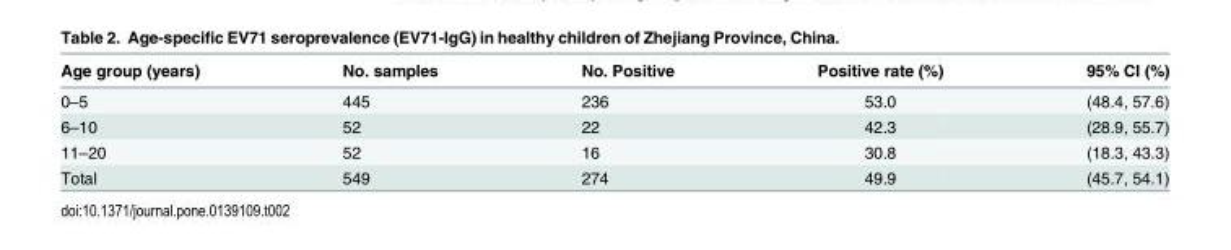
<table><thead><tr><td>Age group (years)</td><td>No. samples</td><td>No. Positive</td><td>Positive rate (%)</td><td>95% CI (%)</td></tr></thead><tbody><tr><td>0–5</td><td>445</td><td>236</td><td>53.0</td><td>(48.4, 57.6)</td></tr><tr><td>6–10</td><td>52</td><td>22</td><td>42.3</td><td>(28.9, 55.7)</td></tr><tr><td>11–20</td><td>52</td><td>16</td><td>30.8</td><td>(18.3, 43.3)</td></tr><tr><td>Total</td><td>549</td><td>274</td><td>49.9</td><td>(45.7, 54.1)</td></tr></tbody></table>